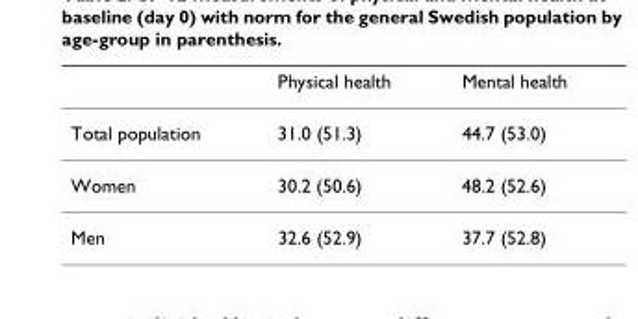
<table><thead><tr><td></td><td>Physical health</td><td>Mental health</td></tr></thead><tbody><tr><td>Total population</td><td>31.0 (51.3)</td><td>44.7 (53.0)</td></tr><tr><td>Women</td><td>30.2 (50.6)</td><td>48.2 (52.6)</td></tr><tr><td>Men</td><td>32.6 (52.9)</td><td>37.7 (52.8)</td></tr></tbody></table>